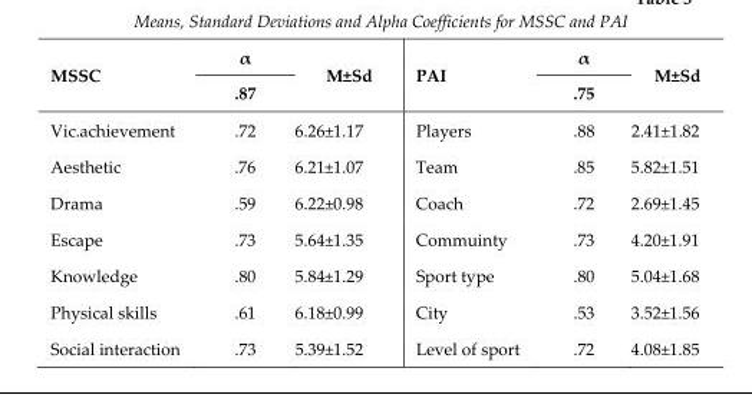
<table><thead><tr><td rowspan="2">MSSC</td><td rowspan="2">α .87</td><td rowspan="2">M±Sd</td><td rowspan="2">PAI</td><td rowspan="2">α .75</td><td rowspan="2">M±Sd</td></tr><tr></tr></thead><tbody><tr><td>Vic.achievement</td><td>.72</td><td>6.26±1.17</td><td>Players</td><td>.88</td><td>2.41±1.82</td></tr><tr><td>Aesthetic</td><td>.76</td><td>6.21±1.07</td><td>Team</td><td>.85</td><td>5.82±1.51</td></tr><tr><td>Drama</td><td>.59</td><td>6.22±0.98</td><td>Coach</td><td>.72</td><td>2.69±1.45</td></tr><tr><td>Escape</td><td>.73</td><td>5.64±1.35</td><td>Commuinty</td><td>.73</td><td>4.20±1.91</td></tr><tr><td>Knowledge</td><td>.80</td><td>5.84±1.29</td><td>Sport type</td><td>.80</td><td>5.04±1.68</td></tr><tr><td>Physical skills</td><td>.61</td><td>6.18±0.99</td><td>City</td><td>.53</td><td>3.52±1.56</td></tr><tr><td>Social interaction</td><td>.73</td><td>5.39±1.52</td><td>Level of sport</td><td>.72</td><td>4.08±1.85</td></tr></tbody></table>